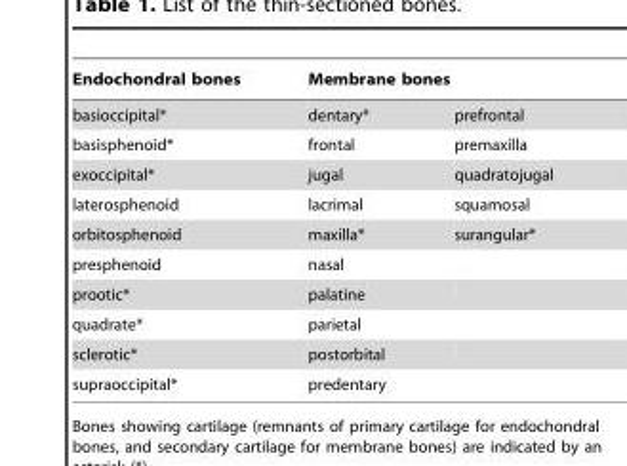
<table><thead><tr><td rowspan="2">Endochondral bones basioccipital*</td><td colspan="2">Membrane bones</td></tr><tr><td>dentary*</td><td>prefrontal</td></tr></thead><tbody><tr><td>basisphenoid*</td><td>frontal</td><td>premaxilla</td></tr><tr><td>exoccipital*</td><td>jugal</td><td>quadratojugal</td></tr><tr><td>laterosphenoid</td><td>lacrimal</td><td>squamosal</td></tr><tr><td>orbitosphenoid</td><td>maxilla*</td><td>surangular*</td></tr><tr><td>presphenoid</td><td>nasal</td><td></td></tr><tr><td>prootic*</td><td>palatine</td><td></td></tr><tr><td>quadrate*</td><td>parietal</td><td></td></tr><tr><td>sclerotic*</td><td>postorbital</td><td></td></tr><tr><td>supraoccipital*</td><td>predentary</td><td></td></tr></tbody></table>